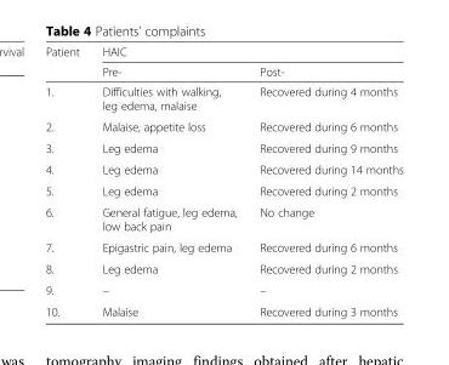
<table><thead><tr><td rowspan="2">Patient</td><td colspan="2">HAIC</td></tr><tr><td>Pre-</td><td>Post-</td></tr></thead><tbody><tr><td>1.</td><td>Difficulties with walking, leg edema, malaise</td><td>Recovered during 4 months</td></tr><tr><td>2.</td><td>Malaise, appetite loss</td><td>Recovered during 6 months</td></tr><tr><td>3.</td><td>Leg edema</td><td>Recovered during 9 months</td></tr><tr><td>4.</td><td>Leg edema</td><td>Recovered during 14 months</td></tr><tr><td>5.</td><td>Leg edema</td><td>Recovered during 2 months</td></tr><tr><td>6.</td><td>General fatigue, leg edema, low back pain</td><td>No change</td></tr><tr><td>7.</td><td>Epigastric pain, leg edema</td><td>Recovered during 6 months</td></tr><tr><td>8.</td><td>Leg edema</td><td>Recovered during 2 months</td></tr><tr><td>9.</td><td>–</td><td>–</td></tr><tr><td>10.</td><td>Malaise</td><td>Recovered during 3 months</td></tr></tbody></table>